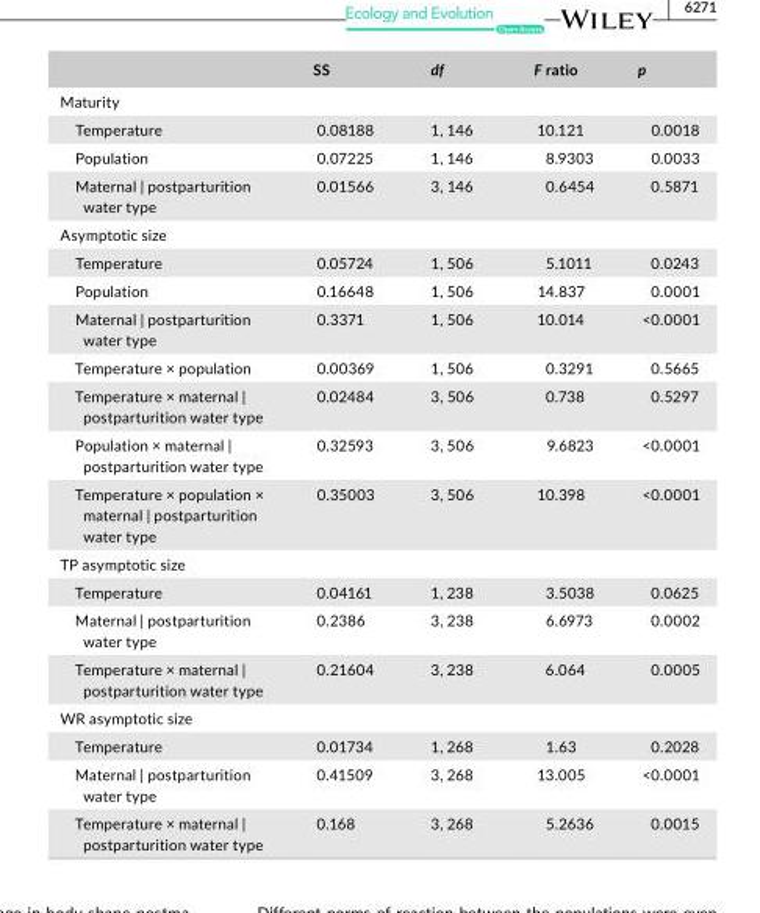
<table><thead><tr><td></td><td>SS</td><td>df</td><td>F ratio</td><td>p</td></tr></thead><tbody><tr><td colspan="5">Maturity</td></tr><tr><td>Temperature</td><td>0.08188</td><td>1, 146</td><td>10.121</td><td>0.0018</td></tr><tr><td>Population</td><td>0.07225</td><td>1, 146</td><td>8.9303</td><td>0.0033</td></tr><tr><td>Maternal | postparturition water type</td><td>0.01566</td><td>3, 146</td><td>0.6454</td><td>0.5871</td></tr><tr><td colspan="5">Asymptotic size</td></tr><tr><td>Temperature</td><td>0.05724</td><td>1, 506</td><td>5.1011</td><td>0.0243</td></tr><tr><td>Population</td><td>0.16648</td><td>1, 506</td><td>14.837</td><td>0.0001</td></tr><tr><td>Maternal | postparturition water type</td><td>0.3371</td><td>1, 506</td><td>10.014</td><td>&lt;0.0001</td></tr><tr><td>Temperature × population</td><td>0.00369</td><td>1, 506</td><td>0.3291</td><td>0.5665</td></tr><tr><td>Temperature × maternal | postparturition water type</td><td>0.02484</td><td>3, 506</td><td>0.738</td><td>0.5297</td></tr><tr><td>Population × maternal | postparturition water type</td><td>0.32593</td><td>3, 506</td><td>9.6823</td><td>&lt;0.0001</td></tr><tr><td>Temperature × population × maternal | postparturition water type</td><td>0.35003</td><td>3, 506</td><td>10.398</td><td>&lt;0.0001</td></tr><tr><td colspan="5">TP asymptotic size</td></tr><tr><td>Temperature</td><td>0.04161</td><td>1, 238</td><td>3.5038</td><td>0.0625</td></tr><tr><td>Maternal | postparturition water type</td><td>0.2386</td><td>3, 238</td><td>6.6973</td><td>0.0002</td></tr><tr><td>Temperature × maternal | postparturition water type</td><td>0.21604</td><td>3, 238</td><td>6.064</td><td>0.0005</td></tr><tr><td colspan="5">WR asymptotic size</td></tr><tr><td>Temperature</td><td>0.01734</td><td>1, 268</td><td>1.63</td><td>0.2028</td></tr><tr><td>Maternal | postparturition water type</td><td>0.41509</td><td>3, 268</td><td>13.005</td><td>&lt;0.0001</td></tr><tr><td>Temperature × maternal | postparturition water type</td><td>0.168</td><td>3, 268</td><td>5.2636</td><td>0.0015</td></tr></tbody></table>